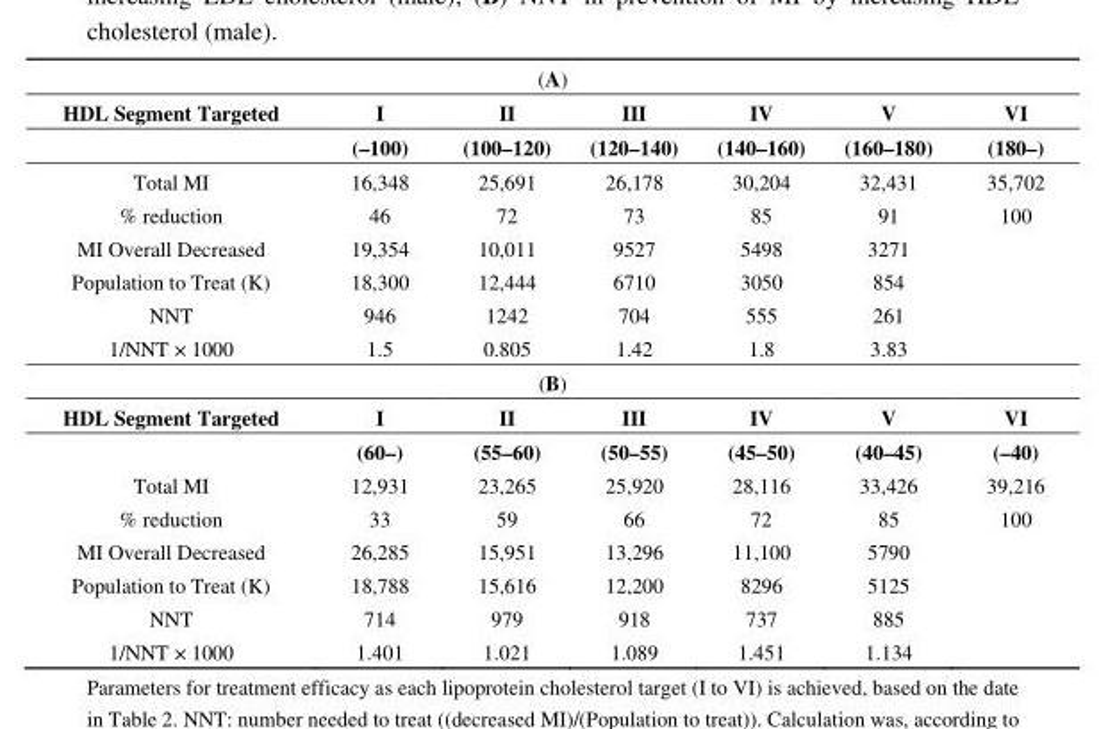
<table><thead><tr><td colspan="7">(A)</td></tr><tr><td rowspan="2">HDL Segment Targeted</td><td rowspan="2">I (–100)</td><td rowspan="2">II (100–120)</td><td rowspan="2">III (120–140)</td><td rowspan="2">IV (140–160)</td><td rowspan="2">V (160–180)</td><td rowspan="2">VI (180–)</td></tr><tr></tr></thead><tbody><tr><td>Total MI</td><td>16,348</td><td>25,691</td><td>26,178</td><td>30,204</td><td>32,431</td><td>35,702</td></tr><tr><td>% reduction</td><td>46</td><td>72</td><td>73</td><td>85</td><td>91</td><td>100</td></tr><tr><td>MI Overall Decreased</td><td>19,354</td><td>10,011</td><td>9527</td><td>5498</td><td>3271</td><td></td></tr><tr><td>Population to Treat (K)</td><td>18,300</td><td>12,444</td><td>6710</td><td>3050</td><td>854</td><td></td></tr><tr><td>NNT</td><td>946</td><td>1242</td><td>704</td><td>555</td><td>261</td><td></td></tr><tr><td>1/NNT × 1000</td><td>1.5</td><td>0.805</td><td>1.42</td><td>1.8</td><td>3.83</td><td></td></tr><tr><td colspan="7">(B)</td></tr><tr><td rowspan="2">HDL Segment Targeted</td><td>I</td><td>II</td><td>III</td><td>IV</td><td>V</td><td>VI</td></tr><tr><td>(60–)</td><td>(55–60)</td><td>(50–55)</td><td>(45–50)</td><td>(40–45)</td><td>(–40)</td></tr><tr><td>Total MI</td><td>12,931</td><td>23,265</td><td>25,920</td><td>28,116</td><td>33,426</td><td>39,216</td></tr><tr><td>% reduction</td><td>33</td><td>59</td><td>66</td><td>72</td><td>85</td><td>100</td></tr><tr><td>MI Overall Decreased</td><td>26,285</td><td>15,951</td><td>13,296</td><td>11,100</td><td>5790</td><td></td></tr><tr><td>Population to Treat (K)</td><td>18,788</td><td>15,616</td><td>12,200</td><td>8296</td><td>5125</td><td></td></tr><tr><td>NNT</td><td>714</td><td>979</td><td>918</td><td>737</td><td>885</td><td></td></tr><tr><td>1/NNT × 1000</td><td>1.401</td><td>1.021</td><td>1.089</td><td>1.451</td><td>1.134</td><td></td></tr></tbody></table>